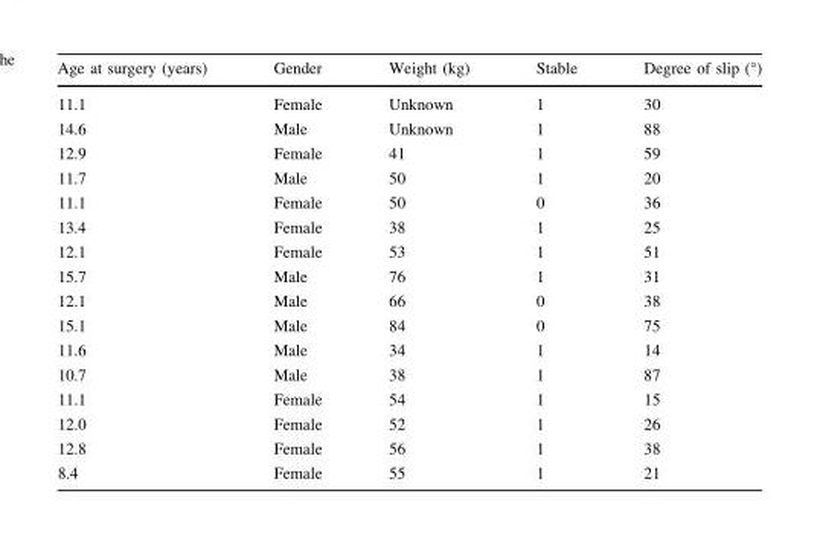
<table><thead><tr><td>Age at surgery (years)</td><td>Gender</td><td>Weight (kg)</td><td>Stable</td><td>Degree of slip (°)</td></tr></thead><tbody><tr><td>11.1</td><td>Female</td><td>Unknown</td><td>1</td><td>30</td></tr><tr><td>14.6</td><td>Male</td><td>Unknown</td><td>1</td><td>88</td></tr><tr><td>12.9</td><td>Female</td><td>41</td><td>1</td><td>59</td></tr><tr><td>11.7</td><td>Male</td><td>50</td><td>1</td><td>20</td></tr><tr><td>11.1</td><td>Female</td><td>50</td><td>0</td><td>36</td></tr><tr><td>13.4</td><td>Female</td><td>38</td><td>1</td><td>25</td></tr><tr><td>12.1</td><td>Female</td><td>53</td><td>1</td><td>51</td></tr><tr><td>15.7</td><td>Male</td><td>76</td><td>1</td><td>31</td></tr><tr><td>12.1</td><td>Male</td><td>66</td><td>0</td><td>38</td></tr><tr><td>15.1</td><td>Male</td><td>84</td><td>0</td><td>75</td></tr><tr><td>11.6</td><td>Male</td><td>34</td><td>1</td><td>14</td></tr><tr><td>10.7</td><td>Male</td><td>38</td><td>1</td><td>87</td></tr><tr><td>11.1</td><td>Female</td><td>54</td><td>1</td><td>15</td></tr><tr><td>12.0</td><td>Female</td><td>52</td><td>1</td><td>26</td></tr><tr><td>12.8</td><td>Female</td><td>56</td><td>1</td><td>38</td></tr><tr><td>8.4</td><td>Female</td><td>55</td><td>1</td><td>21</td></tr></tbody></table>